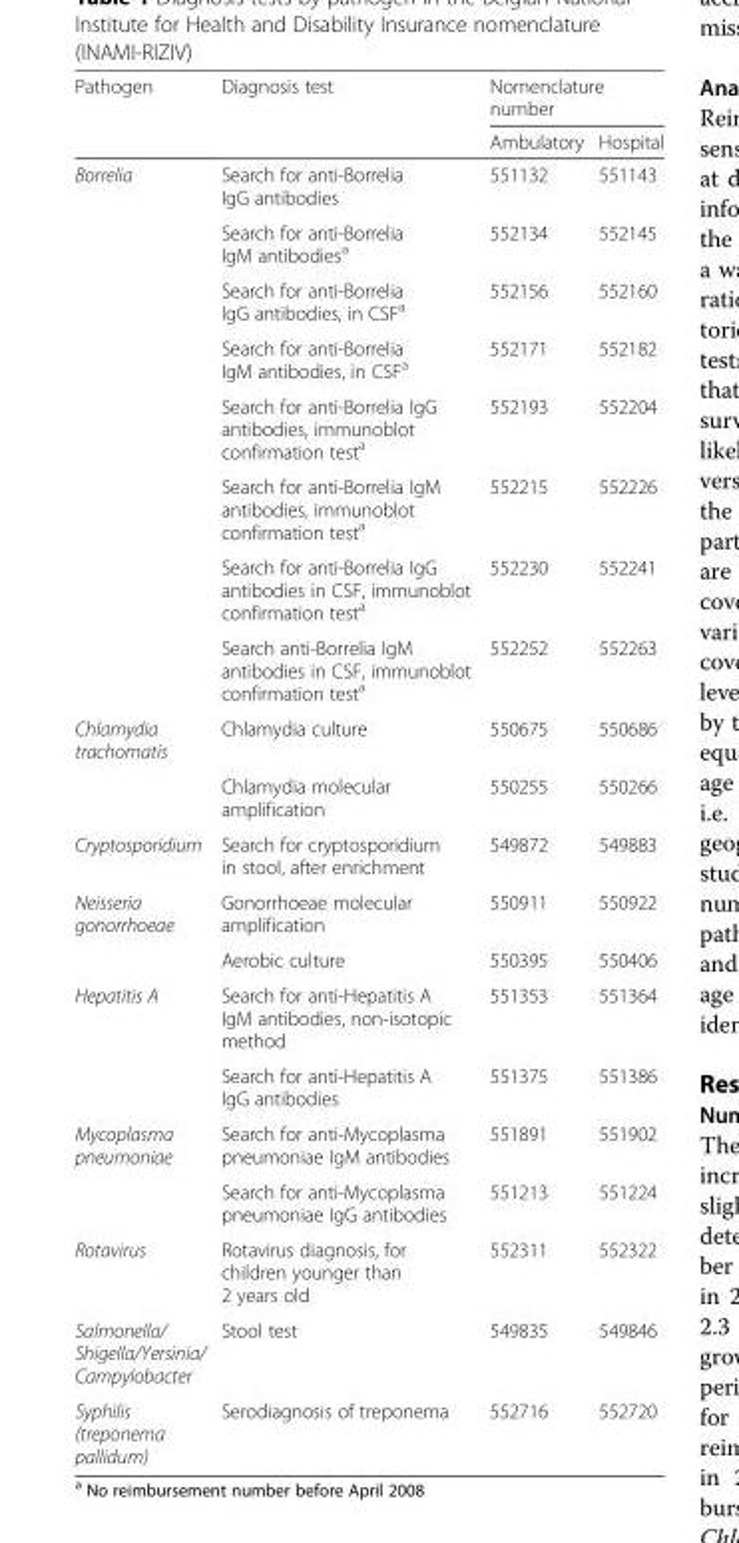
<table><thead><tr><td rowspan="2">Pathogen</td><td rowspan="2">Diagnosis test</td><td colspan="2">Nomenclature number</td></tr><tr><td>Ambulatory</td><td>Hospital</td></tr></thead><tbody><tr><td rowspan="8">Borrelia</td><td>Search for anti-Borrelia IgG antibodies</td><td>551132</td><td>551143</td></tr><tr><td>Search for anti-Borrelia IgM antibodies<sup>a</sup></td><td>552134</td><td>552145</td></tr><tr><td>Search for anti-Borrelia IgG antibodies, in CSF<sup>a</sup></td><td>552156</td><td>552160</td></tr><tr><td>Search for anti-Borrelia IgM antibodies, in CSF<sup>a</sup></td><td>552171</td><td>552182</td></tr><tr><td>Search for anti-Borrelia IgG antibodies, immunoblot confirmation test<sup>a</sup></td><td>552193</td><td>552204</td></tr><tr><td>Search for anti-Borrelia IgM antibodies, immunoblot confirmation test<sup>a</sup></td><td>552215</td><td>552226</td></tr><tr><td>Search for anti-Borrelia IgG antibodies in CSF, immunoblot confirmation test<sup>a</sup></td><td>552230</td><td>552241</td></tr><tr><td>Search anti-Borrelia IgM antibodies in CSF, immunoblot confirmation test<sup>a</sup></td><td>552252</td><td>552263</td></tr><tr><td rowspan="2">Chlamydia trachomatis</td><td>Chlamydia culture</td><td>550675</td><td>550686</td></tr><tr><td>Chlamydia molecular amplification</td><td>550255</td><td>550266</td></tr><tr><td>Cryptosporidium</td><td>Search for cryptosporidium in stool, after enrichment</td><td>549872</td><td>549883</td></tr><tr><td rowspan="2">Neisseria gonorrhoeae</td><td>Gonorrhoeae molecular amplification</td><td>550911</td><td>550922</td></tr><tr><td>Aerobic culture</td><td>550395</td><td>550406</td></tr><tr><td rowspan="2">Hepatitis A</td><td>Search for anti-Hepatitis A IgM antibodies, non-isotopic method</td><td>551353</td><td>551364</td></tr><tr><td>Search for anti-Hepatitis A IgG antibodies</td><td>551375</td><td>551386</td></tr><tr><td rowspan="2">Mycoplasma pneumoniae</td><td>Search for anti-Mycoplasma pneumoniae IgM antibodies</td><td>551891</td><td>551902</td></tr><tr><td>Search for anti-Mycoplasma pneumoniae IgG antibodies</td><td>551213</td><td>551224</td></tr><tr><td>Rotavirus</td><td>Rotavirus diagnosis, for children younger than 2 years old</td><td>552311</td><td>552322</td></tr><tr><td>Salmonella/ Shigella/Yersinia/ Campylobacter</td><td>Stool test</td><td>549835</td><td>549846</td></tr><tr><td>Syphilis (treponema pallidum)</td><td>Serodiagnosis of treponema</td><td>552716</td><td>552720</td></tr></tbody></table>